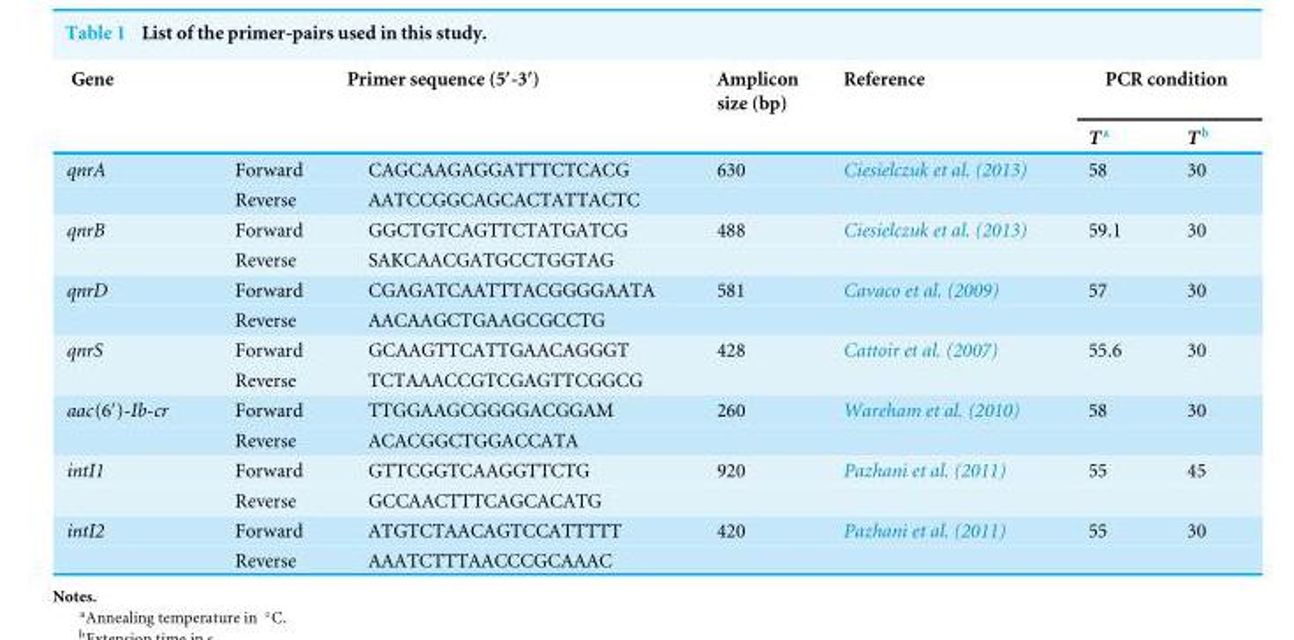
<table><thead><tr><td rowspan="2">Gene</td><td colspan="2">Primer sequence (5′-3′)</td><td rowspan="2">Amplicon size (bp)</td><td rowspan="2">Reference</td><td colspan="2">PCR condition</td></tr><tr><td></td><td></td><td>T <sup>a</sup></td><td>T <sup>b</sup></td></tr></thead><tbody><tr><td rowspan="2">qnrA</td><td>Forward</td><td>CAGCAAGAGGATTTCTCACG</td><td>630</td><td>Ciesielczuk et al. (2013)</td><td>58</td><td>30</td></tr><tr><td>Reverse</td><td>AATCCGGCAGCACTATTACTC</td><td></td><td></td><td></td><td></td></tr><tr><td rowspan="2">qnrB</td><td>Forward</td><td>GGCTGTCAGTTCTATGATCG</td><td>488</td><td>Ciesielczuk et al. (2013)</td><td>59.1</td><td>30</td></tr><tr><td>Reverse</td><td>SAKCAACGATGCCTGGTAG</td><td></td><td></td><td></td><td></td></tr><tr><td rowspan="2">qnrD</td><td>Forward</td><td>CGAGATCAATTTACGGGGAATA</td><td>581</td><td>Cavaco et al. (2009)</td><td>57</td><td>30</td></tr><tr><td>Reverse</td><td>AACAAGCTGAAGCGCCTG</td><td></td><td></td><td></td><td></td></tr><tr><td rowspan="2">qnrS</td><td>Forward</td><td>GCAAGTTCATTGAACAGGGT</td><td>428</td><td>Cattoir et al. (2007)</td><td>55.6</td><td>30</td></tr><tr><td>Reverse</td><td>TCTAAACCGTCGAGTTCGGCG</td><td></td><td></td><td></td><td></td></tr><tr><td rowspan="2">aac(6′)-Ib-cr</td><td>Forward</td><td>TTGGAAGCGGGGACGGAM</td><td>260</td><td>Wareham et al. (2010)</td><td>58</td><td>30</td></tr><tr><td>Reverse</td><td>ACACGGCTGGACCATA</td><td></td><td></td><td></td><td></td></tr><tr><td rowspan="2">intI1</td><td>Forward</td><td>GTTCGGTCAAGGTTCTG</td><td>920</td><td>Pazhani et al. (2011)</td><td>55</td><td>45</td></tr><tr><td>Reverse</td><td>GCCAACTTTCAGCACATG</td><td></td><td></td><td></td><td></td></tr><tr><td rowspan="2">intI2</td><td>Forward</td><td>ATGTCTAACAGTCCATTTTT</td><td>420</td><td>Pazhani et al. (2011)</td><td>55</td><td>30</td></tr><tr><td>Reverse</td><td>AAATCTTTAACCCGCAAAC</td><td></td><td></td><td></td><td></td></tr></tbody></table>